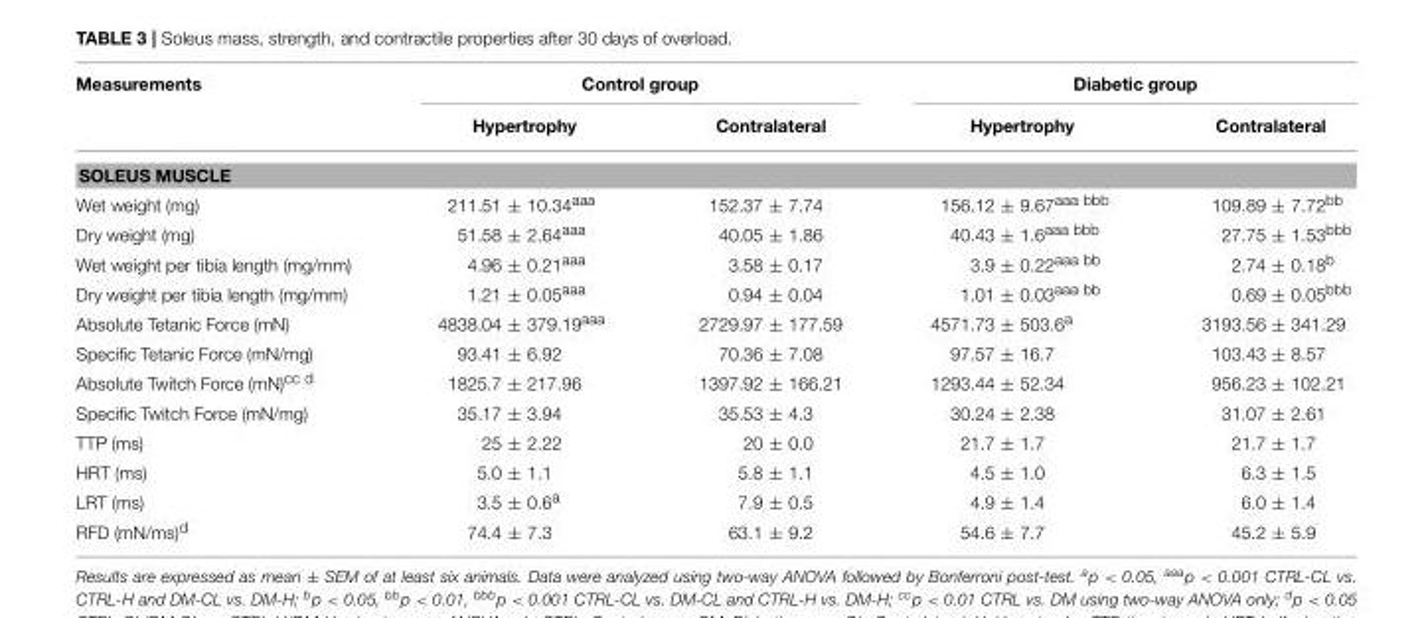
<table><thead><tr><td rowspan="2">Measurements</td><td colspan="2">Control group</td><td colspan="2">Diabetic group</td></tr><tr><td>Hypertrophy</td><td>Contralateral</td><td>Hypertrophy</td><td>Contralateral</td></tr></thead><tbody><tr><td colspan="5">SOLEUS MUSCLE</td></tr><tr><td>Wet weight (mg)</td><td>211.51 ± 10.34<sup>aaa</sup></td><td>152.37 ± 7.74</td><td>156.12 ± 9.67<sup>aaa bbb</sup></td><td>109.89 ± 7.72<sup>bb</sup></td></tr><tr><td>Dry weight (mg)</td><td>51.58 ± 2.64<sup>aaa</sup></td><td>40.05 ± 1.86</td><td>40.43 ± 1.6<sup>aaa bbb</sup></td><td>27.75 ± 1.53<sup>bbb</sup></td></tr><tr><td>Wet weight per tibia length (mg/mm)</td><td>4.96 ± 0.21<sup>aaa</sup></td><td>3.58 ± 0.17</td><td>3.9 ± 0.22<sup>aaa bb</sup></td><td>2.74 ± 0.18<sup>b</sup></td></tr><tr><td>Dry weight per tibia length (mg/mm)</td><td>1.21 ± 0.05<sup>aaa</sup></td><td>0.94 ± 0.04</td><td>1.01 ± 0.03<sup>aaa bb</sup></td><td>0.69 ± 0.05<sup>bbb</sup></td></tr><tr><td>Absolute Tetanic Force (mN)</td><td>4838.04 ± 379.19<sup>aaa</sup></td><td>2729.97 ± 177.59</td><td>4571.73 ± 503.6<sup>a</sup></td><td>3193.56 ± 341.29</td></tr><tr><td>Specific Tetanic Force (mN/mg)</td><td>93.41 ± 6.92</td><td>70.36 ± 7.08</td><td>97.57 ± 16.7</td><td>103.43 ± 8.57</td></tr><tr><td>Absolute Twitch Force (mN)<sup>cc d</sup></td><td>1825.7 ± 217.96</td><td>1397.92 ± 166.21</td><td>1293.44 ± 52.34</td><td>956.23 ± 102.21</td></tr><tr><td>Specific Twitch Force (mN/mg)</td><td>35.17 ± 3.94</td><td>35.53 ± 4.3</td><td>30.24 ± 2.38</td><td>31.07 ± 2.61</td></tr><tr><td>TTP (ms)</td><td>25 ± 2.22</td><td>20 ± 0.0</td><td>21.7 ± 1.7</td><td>21.7 ± 1.7</td></tr><tr><td>HRT (ms)</td><td>5.0 ± 1.1</td><td>5.8 ± 1.1</td><td>4.5 ± 1.0</td><td>6.3 ± 1.5</td></tr><tr><td>LRT (ms)</td><td>3.5 ± 0.6<sup>a</sup></td><td>7.9 ± 0.5</td><td>4.9 ± 1.4</td><td>6.0 ± 1.4</td></tr><tr><td>RFD (mN/ms)<sup>d</sup></td><td>74.4 ± 7.3</td><td>63.1 ± 9.2</td><td>54.6 ± 7.7</td><td>45.2 ± 5.9</td></tr></tbody></table>